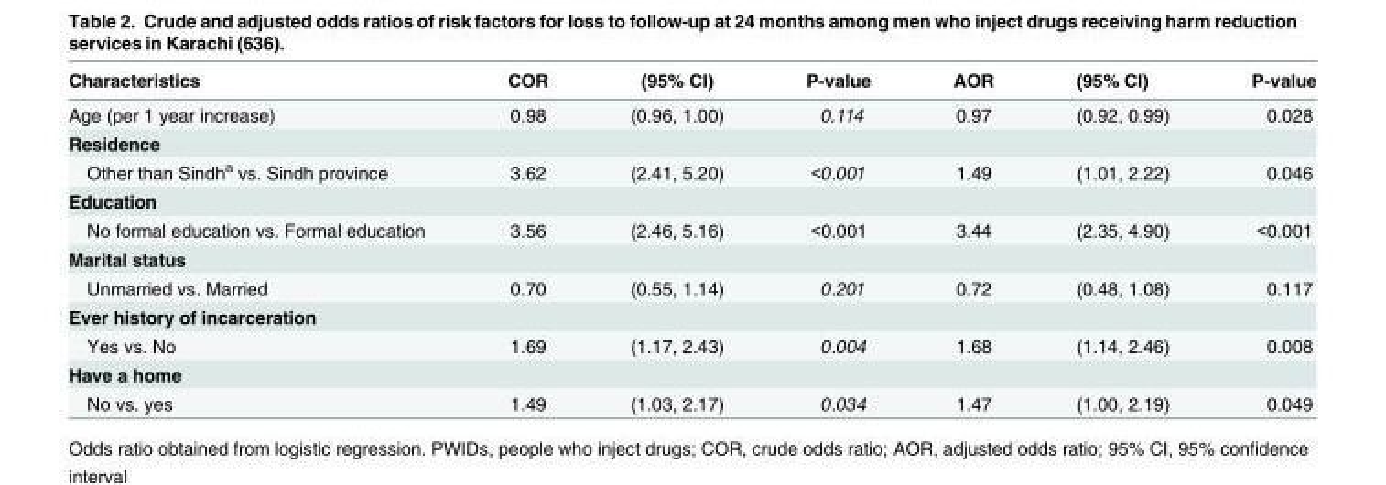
<table><thead><tr><td>Characteristics</td><td>COR</td><td>(95% CI)</td><td>P-value</td><td>AOR</td><td>(95% CI)</td><td>P-value</td></tr></thead><tbody><tr><td>Age (per 1 year increase)</td><td>0.98</td><td>(0.96, 1.00)</td><td>0.114</td><td>0.97</td><td>(0.92, 0.99)</td><td>0.028</td></tr><tr><td colspan="7">Residence</td></tr><tr><td>Other than Sindh<sup>a</sup> vs. Sindh province</td><td>3.62</td><td>(2.41, 5.20)</td><td>&lt;0.001</td><td>1.49</td><td>(1.01, 2.22)</td><td>0.046</td></tr><tr><td colspan="7">Education</td></tr><tr><td>No formal education vs. Formal education</td><td>3.56</td><td>(2.46, 5.16)</td><td>&lt;0.001</td><td>3.44</td><td>(2.35, 4.90)</td><td>&lt;0.001</td></tr><tr><td colspan="7">Marital status</td></tr><tr><td>Unmarried vs. Married</td><td>0.70</td><td>(0.55, 1.14)</td><td>0.201</td><td>0.72</td><td>(0.48, 1.08)</td><td>0.117</td></tr><tr><td colspan="7">Ever history of incarceration</td></tr><tr><td>Yes vs. No</td><td>1.69</td><td>(1.17, 2.43)</td><td>0.004</td><td>1.68</td><td>(1.14, 2.46)</td><td>0.008</td></tr><tr><td colspan="7">Have a home</td></tr><tr><td>No vs. yes</td><td>1.49</td><td>(1.03, 2.17)</td><td>0.034</td><td>1.47</td><td>(1.00, 2.19)</td><td>0.049</td></tr></tbody></table>